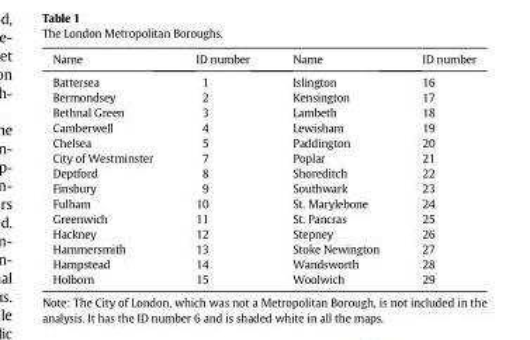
<table><thead><tr><td>Name</td><td>ID number</td><td>Name</td><td>ID number</td></tr></thead><tbody><tr><td>Battersea</td><td>1</td><td>Islington</td><td>16</td></tr><tr><td>Bermondsey</td><td>2</td><td>Kensington</td><td>17</td></tr><tr><td>Bethnal Green</td><td>3</td><td>Lambeth</td><td>18</td></tr><tr><td>Camberwell</td><td>4</td><td>Lewisham</td><td>19</td></tr><tr><td>Chelsea</td><td>5</td><td>Paddington</td><td>20</td></tr><tr><td>City of Westminster</td><td>7</td><td>Poplar</td><td>21</td></tr><tr><td>Deptford</td><td>8</td><td>Shoreditch</td><td>22</td></tr><tr><td>Finsbury</td><td>9</td><td>Southwark</td><td>23</td></tr><tr><td>Fulham</td><td>10</td><td>St. Marylebone</td><td>24</td></tr><tr><td>Greenwich</td><td>11</td><td>St. Pancras</td><td>25</td></tr><tr><td>Hackney</td><td>12</td><td>Stepney</td><td>26</td></tr><tr><td>Hammersmith</td><td>13</td><td>Stoke Newington</td><td>27</td></tr><tr><td>Hampstead</td><td>14</td><td>Wandsworth</td><td>28</td></tr><tr><td>Holborn</td><td>15</td><td>Woolwich</td><td>29</td></tr></tbody></table>